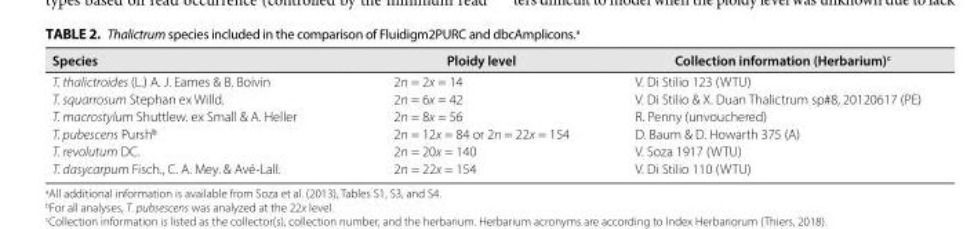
<table><thead><tr><td>Species</td><td>Ploidy level</td><td>Collection information (Herbarium)<sup>c</sup></td></tr></thead><tbody><tr><td>T. thalictroides (L.) A. J. Eames &amp; B. Boivin</td><td>2n = 2x = 14</td><td>V. Di Stilio 123 (WTU)</td></tr><tr><td>T. squarrosum Stephan ex Willd.</td><td>2n = 6x = 42</td><td>V. Di Stilio &amp; X. Duan Thalictrum sp#8, 20120617 (PE)</td></tr><tr><td>T. macrostylum Shuttlew. ex Small &amp; A. Heller</td><td>2n = 8x = 56</td><td>R. Penny (unvouchered)</td></tr><tr><td>T. pubescens Pursh<sup>b</sup></td><td>2n = 12x = 84 or 2n = 22x = 154</td><td>D. Baum &amp; D. Howarth 375 (A)</td></tr><tr><td>T. revolutum DC.</td><td>2n = 20x = 140</td><td>V. Soza 1917 (WTU)</td></tr><tr><td>T. dasycarpum Fisch., C. A. Mey. &amp; Avé- Lall.</td><td>2n = 22x = 154</td><td>V. Di Stilio 110 (WTU)</td></tr></tbody></table>